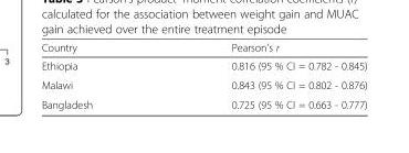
<table><thead><tr><td>Country</td><td>Pearson&#x27;s r</td></tr></thead><tbody><tr><td>Ethiopia</td><td>0.816 (95 % CI = 0.782 - 0.845)</td></tr><tr><td>Malawi</td><td>0.843 (95 % CI = 0.802 - 0.876)</td></tr><tr><td>Bangladesh</td><td>0.725 (95 % CI = 0.663 - 0.777)</td></tr></tbody></table>